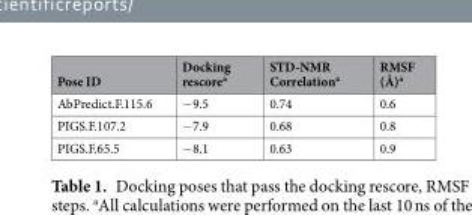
<table><thead><tr><td>Pose ID</td><td>Docking rescore<sup>a</sup></td><td>STD-NMR Correlation<sup>a</sup></td><td>RMSF (Å)<sup>a</sup></td></tr></thead><tbody><tr><td>AbPredict.F.115.6</td><td>−9.5</td><td>0.74</td><td>0.6</td></tr><tr><td>PIGS.F.107.2</td><td>−7.9</td><td>0.68</td><td>0.8</td></tr><tr><td>PIGS.F.65.5</td><td>−8.1</td><td>0.63</td><td>0.9</td></tr></tbody></table>